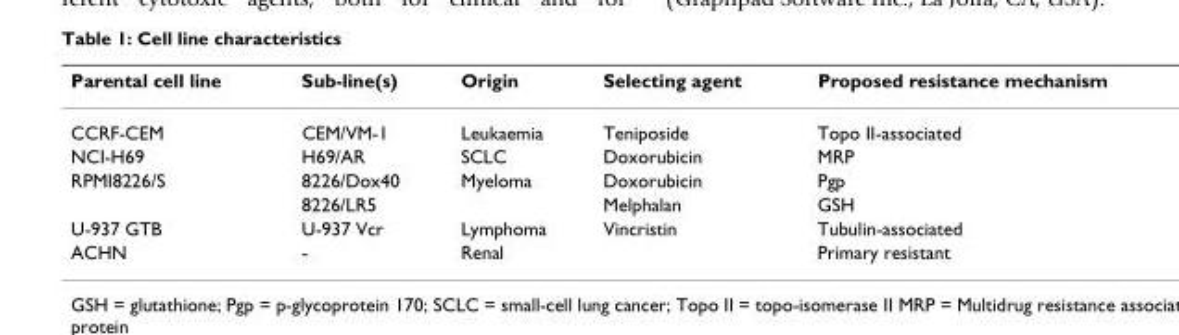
<table><thead><tr><td>Parental cell line</td><td>Sub-line(s)</td><td>Origin</td><td>Selecting agent</td><td>Proposed resistance mechanism</td></tr></thead><tbody><tr><td>CCRF-CEM</td><td>CEM/VM-1</td><td>Leukaemia</td><td>Teniposide</td><td>Topo II-associated</td></tr><tr><td>NCI-H69</td><td>H69/AR</td><td>SCLC</td><td>Doxorubicin</td><td>MRP</td></tr><tr><td rowspan="2">RPMI8226/S</td><td>8226/Dox40</td><td>Myeloma</td><td>Doxorubicin</td><td>Pgp</td></tr><tr><td>8226/LR5</td><td></td><td>Melphalan</td><td>GSH</td></tr><tr><td>U-937 GTB</td><td>U-937 Vcr</td><td>Lymphoma</td><td>Vincristin</td><td>Tubulin-associated</td></tr><tr><td>ACHN</td><td>-</td><td>Renal</td><td></td><td>Primary resistant</td></tr></tbody></table>